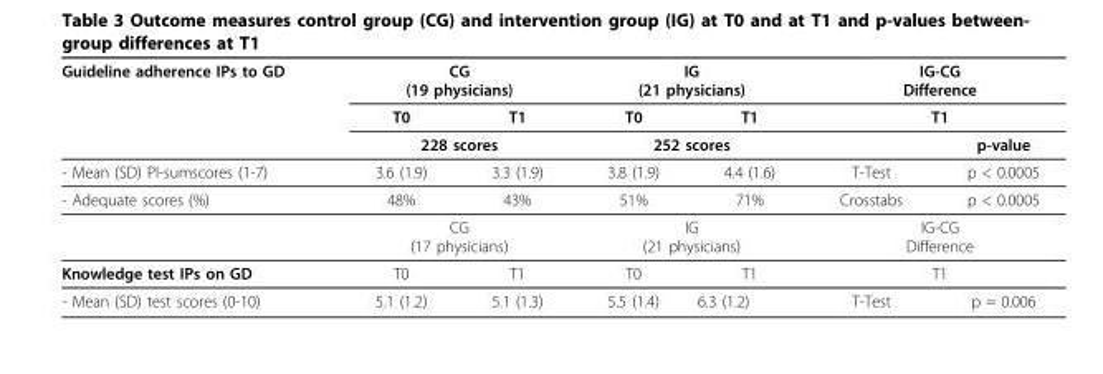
<table><thead><tr><td rowspan="3">Guideline adherence IPs to GD</td><td colspan="2">CG (19 physicians)</td><td colspan="2">IG (21 physicians)</td><td rowspan="2" colspan="2">IG-CG Difference T1</td></tr><tr><td>T0</td><td>T1</td><td>T0</td><td>T1</td></tr><tr><td colspan="2">228 scores</td><td colspan="2">252 scores</td><td></td><td>p-value</td></tr></thead><tbody><tr><td>- Mean (SD) PI-sumscores (1-7)</td><td>3.6 (1.9)</td><td>3.3 (1.9)</td><td>3.8 (1.9)</td><td>4.4 (1.6)</td><td>T-Test</td><td>p &lt; 0.0005</td></tr><tr><td rowspan="2">- Adequate scores (%)</td><td>48%</td><td>43%</td><td>51%</td><td>71%</td><td>Crosstabs</td><td>p &lt; 0.0005</td></tr><tr><td colspan="2">CG (17 physicians)</td><td colspan="2">IG (21 physicians)</td><td colspan="2">IG-CG Difference</td></tr><tr><td>Knowledge test IPs on GD</td><td>T0</td><td>T1</td><td>T0</td><td>T1</td><td colspan="2">T1</td></tr><tr><td>- Mean (SD) test scores (0-10)</td><td>5.1 (1.2)</td><td>5.1 (1.3)</td><td>5.5 (1.4)</td><td>6.3 (1.2)</td><td>T-Test</td><td>p = 0.006</td></tr></tbody></table>